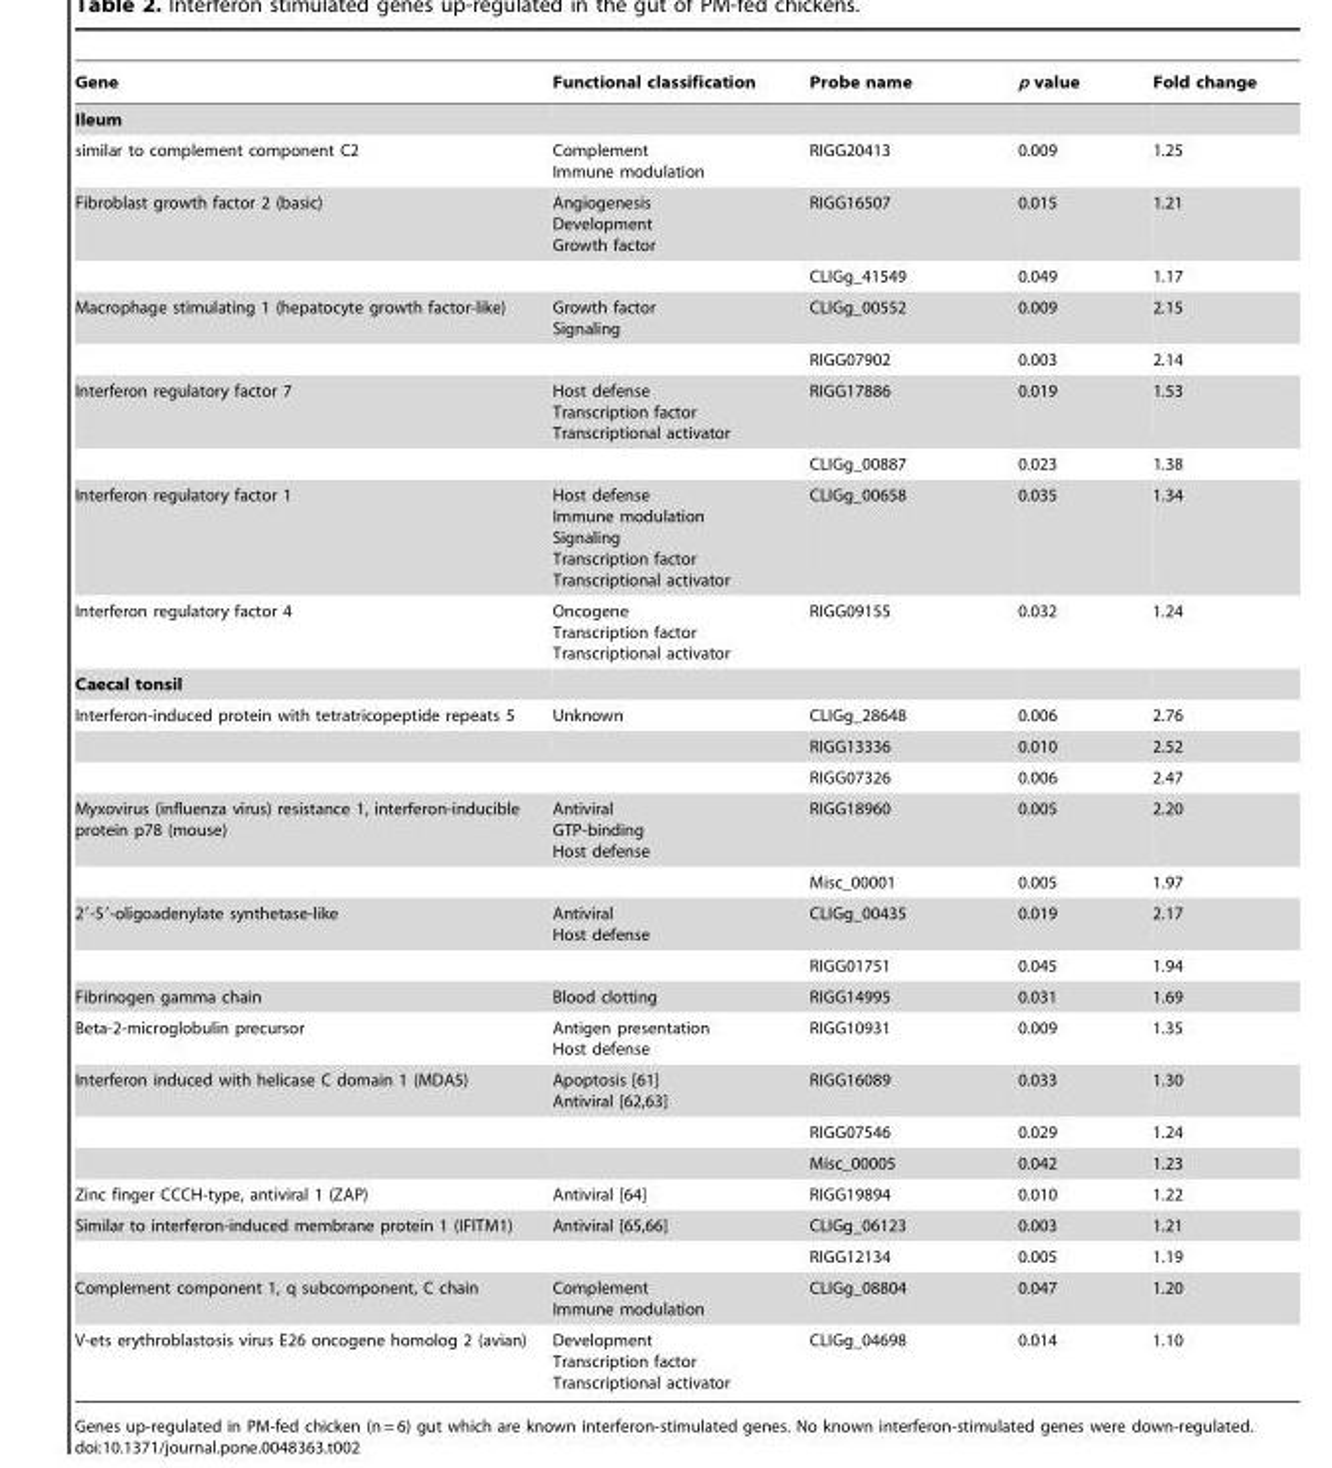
<table><thead><tr><td>Gene</td><td>Functional classification</td><td>Probe name</td><td>p value</td><td>Fold change</td></tr></thead><tbody><tr><td colspan="5">Ileum</td></tr><tr><td>similar to complement component C2</td><td>Complement Immune modulation</td><td>RIGG20413</td><td>0.009</td><td>1.25</td></tr><tr><td rowspan="2">Fibroblast growth factor 2 (basic)</td><td>Angiogenesis Development Growth factor</td><td>RIGG16507</td><td>0.015</td><td>1.21</td></tr><tr><td></td><td>CLIGg_41549</td><td>0.049</td><td>1.17</td></tr><tr><td rowspan="2">Macrophage stimulating 1 (hepatocyte growth factor-like)</td><td>Growth factor Signaling</td><td>CLIGg_00552</td><td>0.009</td><td>2.15</td></tr><tr><td></td><td>RIGG07902</td><td>0.003</td><td>2.14</td></tr><tr><td rowspan="2">Interferon regulatory factor 7</td><td>Host defense Transcription factor Transcriptional activator</td><td>RIGG17886</td><td>0.019</td><td>1.53</td></tr><tr><td></td><td>CLIGg_00887</td><td>0.023</td><td>1.38</td></tr><tr><td>Interferon regulatory factor 1</td><td>Host defense Immune modulation Signaling Transcription factor Transcriptional activator</td><td>CLIGg_00658</td><td>0.035</td><td>1.34</td></tr><tr><td>Interferon regulatory factor 4</td><td>Oncogene Transcription factor Transcriptional activator</td><td>RIGG09155</td><td>0.032</td><td>1.24</td></tr><tr><td colspan="5">Caecal tonsil</td></tr><tr><td rowspan="3">Interferon-induced protein with tetratricopeptide repeats 5</td><td>Unknown</td><td>CLIGg_28648</td><td>0.006</td><td>2.76</td></tr><tr><td></td><td>RIGG13336</td><td>0.010</td><td>2.52</td></tr><tr><td></td><td>RIGG07326</td><td>0.006</td><td>2.47</td></tr><tr><td rowspan="2">Myxovirus (influenza virus) resistance 1, interferon-inducible protein p78 (mouse)</td><td>Antiviral GTP-binding Host defense</td><td>RIGG18960</td><td>0.005</td><td>2.20</td></tr><tr><td></td><td>Misc_00001</td><td>0.005</td><td>1.97</td></tr><tr><td rowspan="2">2′-5′-oligoadenylate synthetase-like</td><td>Antiviral Host defense</td><td>CLIGg_00435</td><td>0.019</td><td>2.17</td></tr><tr><td></td><td>RIGG01751</td><td>0.045</td><td>1.94</td></tr><tr><td>Fibrinogen gamma chain</td><td>Blood clotting</td><td>RIGG14995</td><td>0.031</td><td>1.69</td></tr><tr><td>Beta-2-microglobulin precursor</td><td>Antigen presentation Host defense</td><td>RIGG10931</td><td>0.009</td><td>1.35</td></tr><tr><td rowspan="3">Interferon induced with helicase C domain 1 (MDA5)</td><td>Apoptosis [61] Antiviral [62,63]</td><td>RIGG16089</td><td>0.033</td><td>1.30</td></tr><tr><td></td><td>RIGG07546</td><td>0.029</td><td>1.24</td></tr><tr><td></td><td>Misc_00005</td><td>0.042</td><td>1.23</td></tr><tr><td>Zinc finger CCCH-type, antiviral 1 (ZAP)</td><td>Antiviral [64]</td><td>RIGG19894</td><td>0.010</td><td>1.22</td></tr><tr><td rowspan="2">Similar to interferon-induced membrane protein 1 (IFITM1)</td><td>Antiviral [65,66]</td><td>CLIGg_06123</td><td>0.003</td><td>1.21</td></tr><tr><td></td><td>RIGG12134</td><td>0.005</td><td>1.19</td></tr><tr><td>Complement component 1, q subcomponent, C chain</td><td>Complement Immune modulation</td><td>CLIGg_08804</td><td>0.047</td><td>1.20</td></tr><tr><td>V-ets erythroblastosis virus E26 oncogene homolog 2 (avian)</td><td>Development Transcription factor Transcriptional activator</td><td>CLIGg_04698</td><td>0.014</td><td>1.10</td></tr></tbody></table>